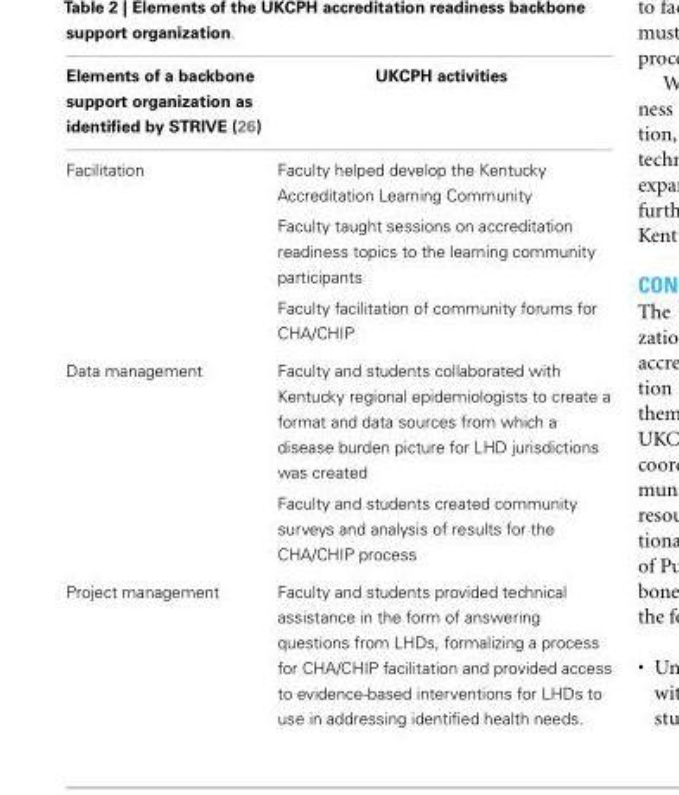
<table><thead><tr><td>Elements of a backbone support organization as identified by STRIVE (26)</td><td>UKCPH activities</td></tr></thead><tbody><tr><td rowspan="3">Facilitation</td><td>Faculty helped develop the Kentucky Accreditation Learning Community</td></tr><tr><td>Faculty taught sessions on accreditation readiness topics to the learning community participants</td></tr><tr><td>Faculty facilitation of community forums for CHA/CHIP</td></tr><tr><td rowspan="2">Data management</td><td>Faculty and students collaborated with Kentucky regional epidemiologists to create a format and data sources from which a disease burden picture for LHD jurisdictions was created</td></tr><tr><td>Faculty and students created community surveys and analysis of results for the CHA/CHIP process</td></tr><tr><td>Project management</td><td>Faculty and students provided technical assistance in the form of answering questions from LHDs, formalizing a process for CHA/CHIP facilitation and provided access to evidence-based interventions for LHDs to use in addressing identified health needs.</td></tr></tbody></table>